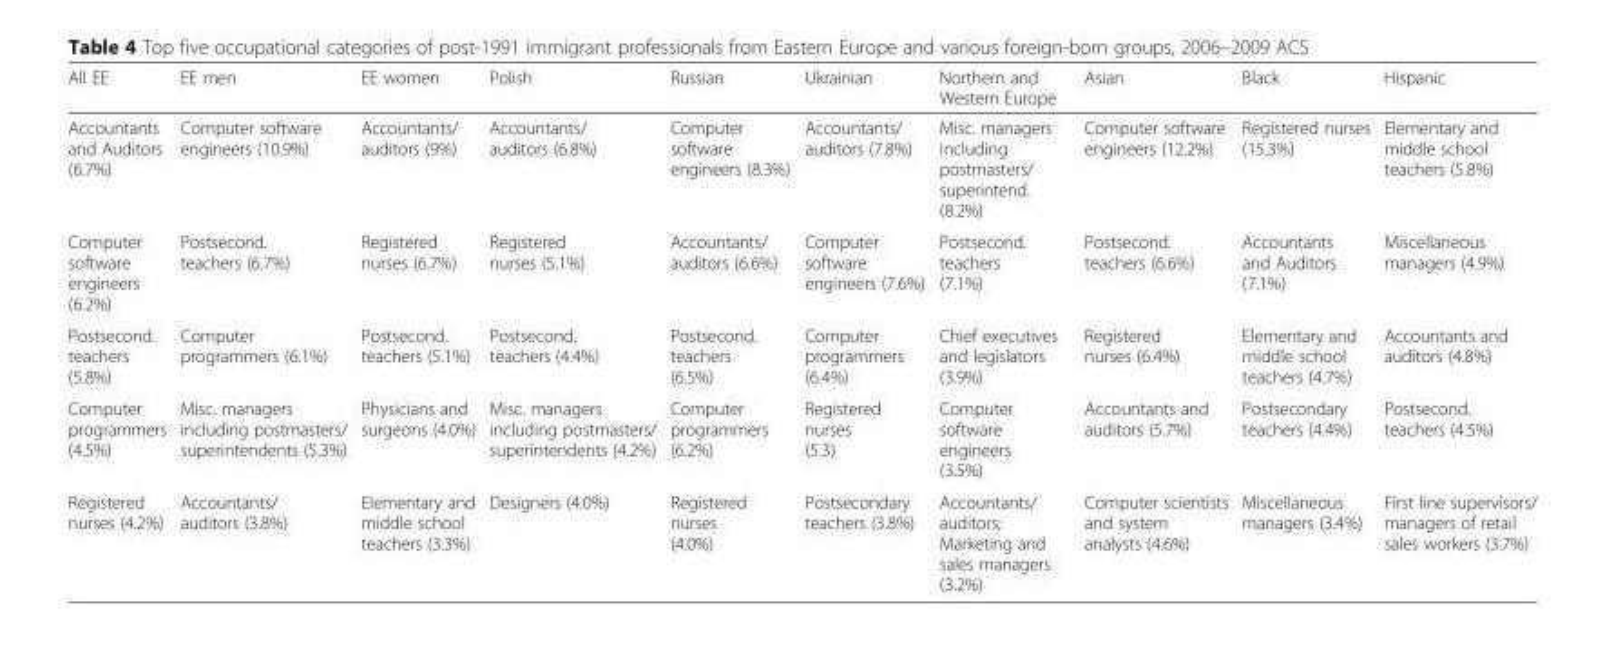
<table><thead><tr><td>All EE</td><td>EE men</td><td>EE women</td><td>Polish</td><td>Russian</td><td>Ukrainian</td><td>Northern and Western Europe</td><td>Asian</td><td>Black</td><td>Hispanic</td></tr></thead><tbody><tr><td>Accountants and Auditors (6.7%)</td><td>Computer software engineers (10.9%)</td><td>Accountants/ auditors (9%)</td><td>Accountants/ auditors (6.8%)</td><td>Computer software engineers (8.3%)</td><td>Accountants/ auditors (7.8%)</td><td>Misc. managers including postmasters/ superintend. (8.2%)</td><td>Computer software engineers (12.2%)</td><td>Registered nurses (15.3%)</td><td>Elementary and middle school teachers (5.8%)</td></tr><tr><td>Computer software engineers (6.2%)</td><td>Postsecond. teachers (6.7%)</td><td>Registered nurses (6.7%)</td><td>Registered nurses (5.1%)</td><td>Accountants/ auditors (6.6%)</td><td>Computer software engineers (7.6%)</td><td>Postsecond. teachers (7.1%)</td><td>Postsecond. teachers (6.6%)</td><td>Accountants and Auditors (7.1%)</td><td>Miscellaneous managers (4.9%)</td></tr><tr><td>Postsecond. teachers (5.8%)</td><td>Computer programmers (6.1%)</td><td>Postsecond. teachers (5.1%)</td><td>Postsecond. teachers (4.4%)</td><td>Postsecond. teachers (6.5%)</td><td>Computer programmers (6.4%)</td><td>Chief executives and legislators (3.9%)</td><td>Registered nurses (6.4%)</td><td>Elementary and middle school teachers (4.7%)</td><td>Accountants and auditors (4.8%)</td></tr><tr><td>Computer programmers (4.5%)</td><td>Misc. managers including postmasters/ superintendents (5.3%)</td><td>Physicians and surgeons (4.0%)</td><td>Misc. managers including postmasters/ superintendents (4.2%)</td><td>Computer programmers (6.2%)</td><td>Registered nurses (5.3)</td><td>Computer software engineers (3.5%)</td><td>Accountants and auditors (5.7%)</td><td>Postsecondary teachers (4.4%)</td><td>Postsecond. teachers (4.5%)</td></tr><tr><td>Registered nurses (4.2%)</td><td>Accountants/ auditors (3.8%)</td><td>Elementary and middle school teachers (3.3%)</td><td>Designers (4.0%)</td><td>Registered nurses (4.0%)</td><td>Postsecondary teachers (3.8%)</td><td>Accountants/ auditors; Marketing and sales managers (3.2%)</td><td>Computer scientists and system analysts (4.6%)</td><td>Miscellaneous managers (3.4%)</td><td>First line supervisors/ managers of retail sales workers (3.7%)</td></tr></tbody></table>